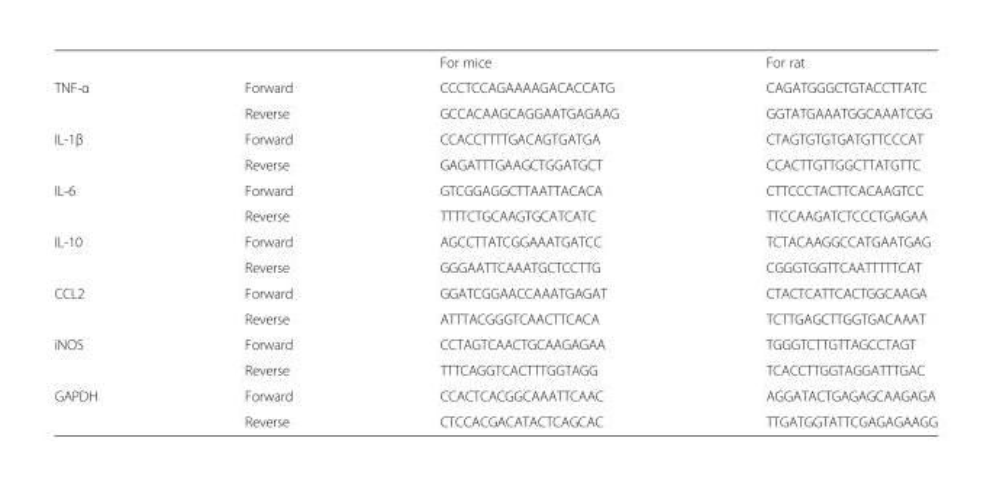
<table><thead><tr><td></td><td></td><td>For mice</td><td>For rat</td></tr></thead><tbody><tr><td rowspan="2">TNF-α</td><td>Forward</td><td>CCCTCCAGAAAAGACACCATG</td><td>CAGATGGGCTGTACCTTATC</td></tr><tr><td>Reverse</td><td>GCCACAAGCAGGAATGAGAAG</td><td>GGTATGAAATGGCAAATCGG</td></tr><tr><td rowspan="2">IL-1β</td><td>Forward</td><td>CCACCTTTTGACAGTGATGA</td><td>CTAGTGTGTGATGTTCCCAT</td></tr><tr><td>Reverse</td><td>GAGATTTGAAGCTGGATGCT</td><td>CCACTTGTTGGCTTATGTTC</td></tr><tr><td rowspan="2">IL-6</td><td>Forward</td><td>GTCGGAGGCTTAATTACACA</td><td>CTTCCCTACTTCACAAGTCC</td></tr><tr><td>Reverse</td><td>TTTTCTGCAAGTGCATCATC</td><td>TTCCAAGATCTCCCTGAGAA</td></tr><tr><td rowspan="2">IL-10</td><td>Forward</td><td>AGCCTTATCGGAAATGATCC</td><td>TCTACAAGGCCATGAATGAG</td></tr><tr><td>Reverse</td><td>GGGAATTCAAATGCTCCTTG</td><td>CGGGTGGTTCAATTTTTCAT</td></tr><tr><td rowspan="2">CCL2</td><td>Forward</td><td>GGATCGGAACCAAATGAGAT</td><td>CTACTCATTCACTGGCAAGA</td></tr><tr><td>Reverse</td><td>ATTTACGGGTCAACTTCACA</td><td>TCTTGAGCTTGGTGACAAAT</td></tr><tr><td rowspan="2">iNOS</td><td>Forward</td><td>CCTAGTCAACTGCAAGAGAA</td><td>TGGGTCTTGTTAGCCTAGT</td></tr><tr><td>Reverse</td><td>TTTCAGGTCACTTTGGTAGG</td><td>TCACCTTGGTAGGATTTGAC</td></tr><tr><td rowspan="2">GAPDH</td><td>Forward</td><td>CCACTCACGGCAAATTCAAC</td><td>AGGATACTGAGAGCAAGAGA</td></tr><tr><td>Reverse</td><td>CTCCACGACATACTCAGCAC</td><td>TTGATGGTATTCGAGAGAAGG</td></tr></tbody></table>